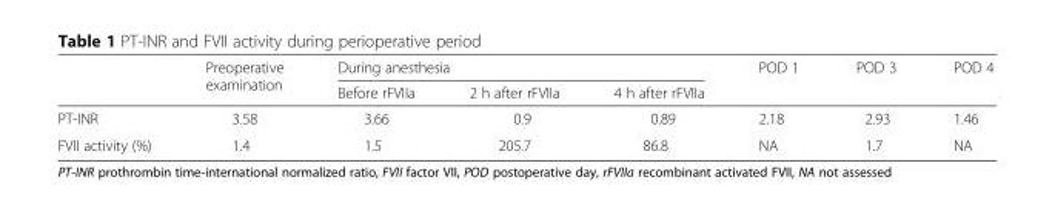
<table><thead><tr><td rowspan="2"></td><td rowspan="2">Preoperative examination</td><td colspan="3">During anesthesia</td><td rowspan="2">POD 1</td><td rowspan="2">POD 3</td><td rowspan="2">POD 4</td></tr><tr><td>Before rFVIIa</td><td>2 h after rFVIIa</td><td>4 h after rFVIIa</td></tr></thead><tbody><tr><td>PT-INR</td><td>3.58</td><td>3.66</td><td>0.9</td><td>0.89</td><td>2.18</td><td>2.93</td><td>1.46</td></tr><tr><td>FVII activity (%)</td><td>1.4</td><td>1.5</td><td>205.7</td><td>86.8</td><td>NA</td><td>1.7</td><td>NA</td></tr></tbody></table>